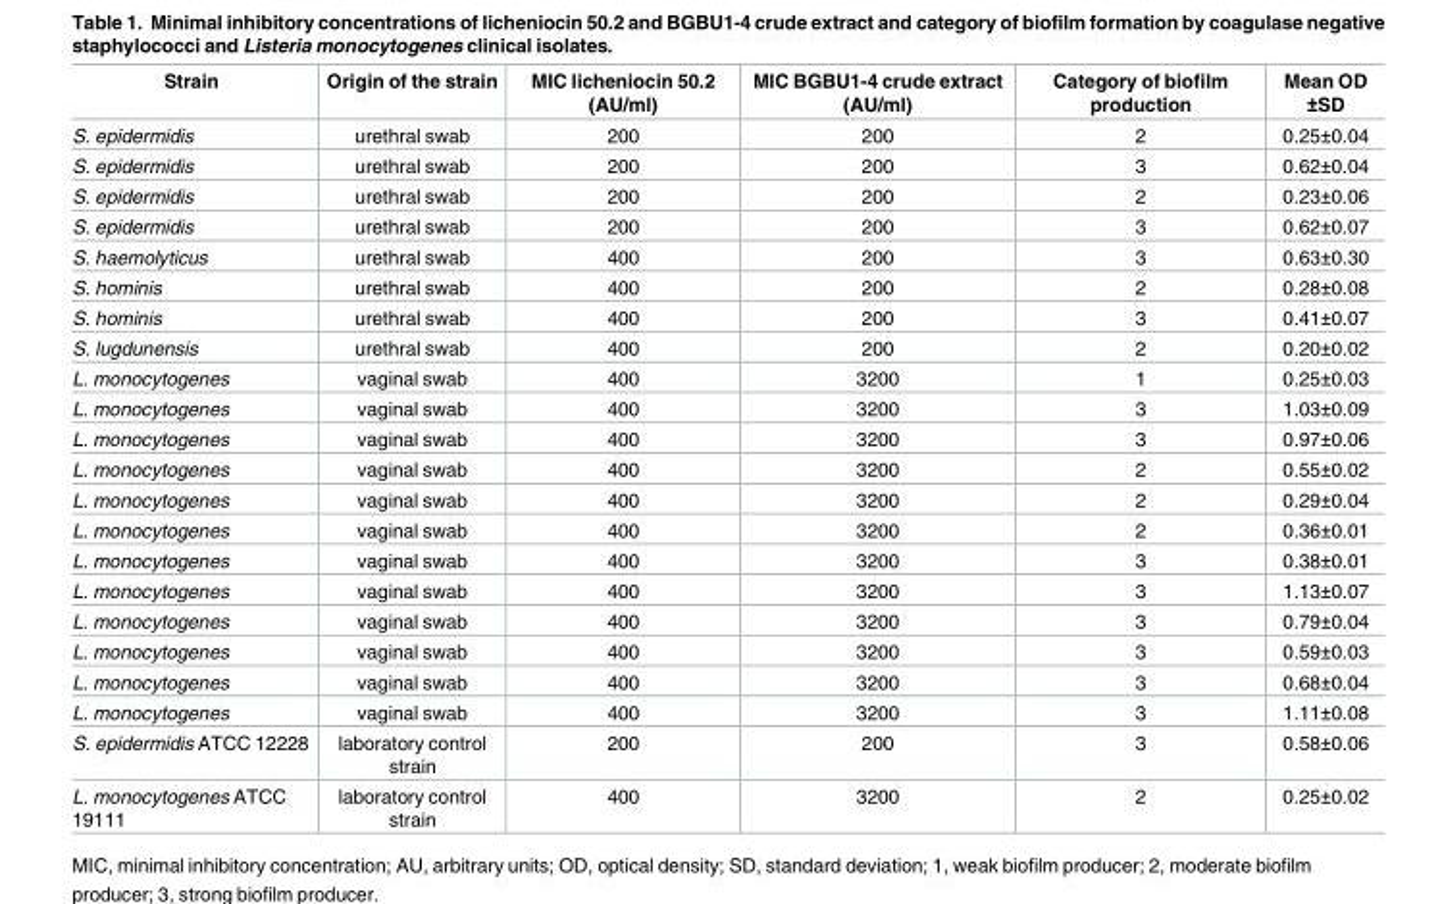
<table><thead><tr><td>Strain</td><td>Origin of the strain</td><td>MIC licheniocin 50.2 (AU/ml)</td><td>MIC BGBU1-4 crude extract (AU/ml)</td><td>Category of biofilm production</td><td>Mean OD ±SD</td></tr></thead><tbody><tr><td>S. epidermidis</td><td>urethral swab</td><td>200</td><td>200</td><td>2</td><td>0.25±0.04</td></tr><tr><td>S. epidermidis</td><td>urethral swab</td><td>200</td><td>200</td><td>3</td><td>0.62±0.04</td></tr><tr><td>S. epidermidis</td><td>urethral swab</td><td>200</td><td>200</td><td>2</td><td>0.23±0.06</td></tr><tr><td>S. epidermidis</td><td>urethral swab</td><td>200</td><td>200</td><td>3</td><td>0.62±0.07</td></tr><tr><td>S. haemolyticus</td><td>urethral swab</td><td>400</td><td>200</td><td>3</td><td>0.63±0.30</td></tr><tr><td>S. hominis</td><td>urethral swab</td><td>400</td><td>200</td><td>2</td><td>0.28±0.08</td></tr><tr><td>S. hominis</td><td>urethral swab</td><td>400</td><td>200</td><td>3</td><td>0.41±0.07</td></tr><tr><td>S. lugdunensis</td><td>urethral swab</td><td>400</td><td>200</td><td>2</td><td>0.20±0.02</td></tr><tr><td>L. monocytogenes</td><td>vaginal swab</td><td>400</td><td>3200</td><td>1</td><td>0.25±0.03</td></tr><tr><td>L. monocytogenes</td><td>vaginal swab</td><td>400</td><td>3200</td><td>3</td><td>1.03±0.09</td></tr><tr><td>L. monocytogenes</td><td>vaginal swab</td><td>400</td><td>3200</td><td>3</td><td>0.97±0.06</td></tr><tr><td>L. monocytogenes</td><td>vaginal swab</td><td>400</td><td>3200</td><td>2</td><td>0.55±0.02</td></tr><tr><td>L. monocytogenes</td><td>vaginal swab</td><td>400</td><td>3200</td><td>2</td><td>0.29±0.04</td></tr><tr><td>L. monocytogenes</td><td>vaginal swab</td><td>400</td><td>3200</td><td>2</td><td>0.36±0.01</td></tr><tr><td>L. monocytogenes</td><td>vaginal swab</td><td>400</td><td>3200</td><td>3</td><td>0.38±0.01</td></tr><tr><td>L. monocytogenes</td><td>vaginal swab</td><td>400</td><td>3200</td><td>3</td><td>1.13±0.07</td></tr><tr><td>L. monocytogenes</td><td>vaginal swab</td><td>400</td><td>3200</td><td>3</td><td>0.79±0.04</td></tr><tr><td>L. monocytogenes</td><td>vaginal swab</td><td>400</td><td>3200</td><td>3</td><td>0.59±0.03</td></tr><tr><td>L. monocytogenes</td><td>vaginal swab</td><td>400</td><td>3200</td><td>3</td><td>0.68±0.04</td></tr><tr><td>L. monocytogenes</td><td>vaginal swab</td><td>400</td><td>3200</td><td>3</td><td>1.11±0.08</td></tr><tr><td>S. epidermidis ATCC 12228</td><td>laboratory control strain</td><td>200</td><td>200</td><td>3</td><td>0.58±0.06</td></tr><tr><td>L. monocytogenes ATCC 19111</td><td>laboratory control strain</td><td>400</td><td>3200</td><td>2</td><td>0.25±0.02</td></tr></tbody></table>